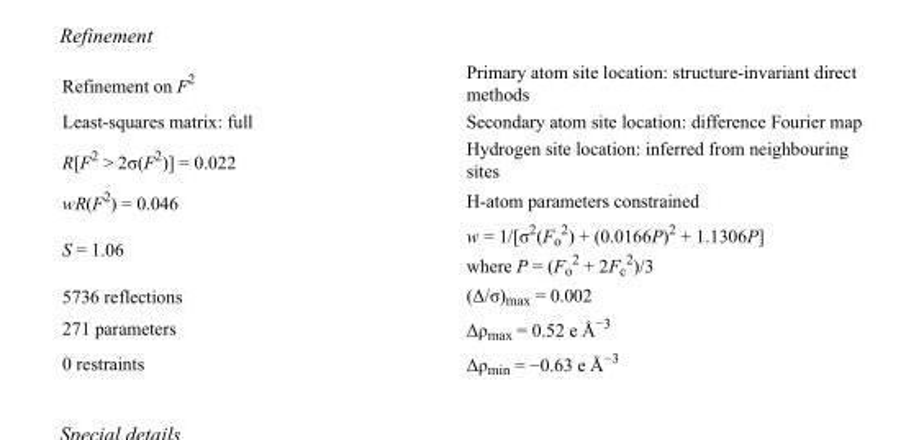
<table><tbody><tr><td>Refinement on F<sup>2</sup></td><td>Primary atom site location: structure-invariant direct methods</td></tr><tr><td>Least-squares matrix: full</td><td>Secondary atom site location: difference Fourier map</td></tr><tr><td>R[F<sup>2</sup> &gt; 2σ(F<sup>2</sup>)] = 0.022</td><td>Hydrogen site location: inferred from neighbouring sites</td></tr><tr><td>wR(F<sup>2</sup>) = 0.046</td><td>H-atom parameters constrained</td></tr><tr><td>S = 1.06</td><td>w = 1/[σ<sup>2</sup>(F<sub>o</sub> <sup>2</sup>) + (0.0166P)<sup>2</sup> + 1.1306P] where P = (F<sub>o</sub> <sup>2</sup> + 2F<sub>c</sub> <sup>2</sup>)/3</td></tr><tr><td>5736 reflections</td><td>(Δ/σ)<sub>max</sub> = 0.002</td></tr><tr><td>271 parameters</td><td>Δρ<sub>max</sub> = 0.52 e Å<sup>−3</sup></td></tr><tr><td>0 restraints</td><td>Δρ<sub>min</sub> = −0.63 e Å<sup>−3</sup></td></tr></tbody></table>